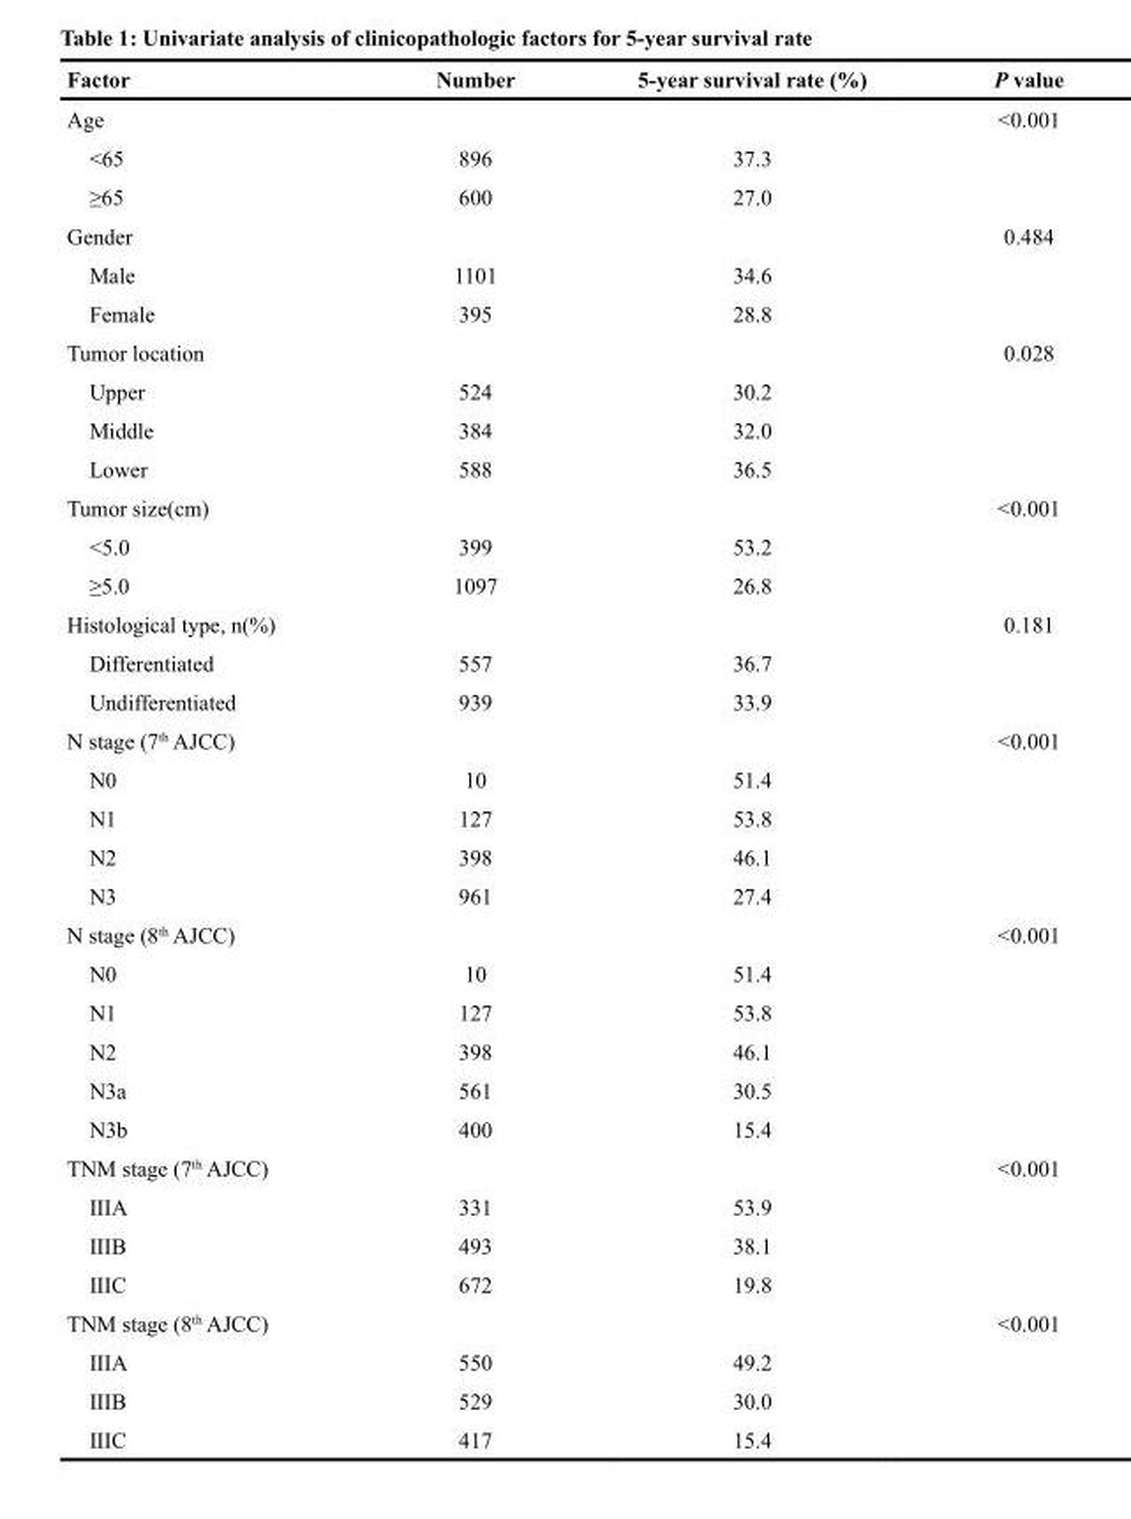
<table><thead><tr><td>Factor</td><td>Number</td><td>5-year survival rate (%)</td><td>P value</td></tr></thead><tbody><tr><td>Age</td><td></td><td></td><td>&lt;0.001</td></tr><tr><td>&lt;65</td><td>896</td><td>37.3</td><td></td></tr><tr><td>≥65</td><td>600</td><td>27.0</td><td></td></tr><tr><td>Gender</td><td></td><td></td><td>0.484</td></tr><tr><td>Male</td><td>1101</td><td>34.6</td><td></td></tr><tr><td>Female</td><td>395</td><td>28.8</td><td></td></tr><tr><td>Tumor location</td><td></td><td></td><td>0.028</td></tr><tr><td>Upper</td><td>524</td><td>30.2</td><td></td></tr><tr><td>Middle</td><td>384</td><td>32.0</td><td></td></tr><tr><td>Lower</td><td>588</td><td>36.5</td><td></td></tr><tr><td>Tumor size(cm)</td><td></td><td></td><td>&lt;0.001</td></tr><tr><td>&lt;5.0</td><td>399</td><td>53.2</td><td></td></tr><tr><td>≥5.0</td><td>1097</td><td>26.8</td><td></td></tr><tr><td>Histological type, n(%)</td><td></td><td></td><td>0.181</td></tr><tr><td>Differentiated</td><td>557</td><td>36.7</td><td></td></tr><tr><td>Undifferentiated</td><td>939</td><td>33.9</td><td></td></tr><tr><td>N stage (7<sup>th</sup> AJCC)</td><td></td><td></td><td>&lt;0.001</td></tr><tr><td>N0</td><td>10</td><td>51.4</td><td></td></tr><tr><td>N1</td><td>127</td><td>53.8</td><td></td></tr><tr><td>N2</td><td>398</td><td>46.1</td><td></td></tr><tr><td>N3</td><td>961</td><td>27.4</td><td></td></tr><tr><td>N stage (8<sup>th</sup> AJCC)</td><td></td><td></td><td>&lt;0.001</td></tr><tr><td>N0</td><td>10</td><td>51.4</td><td></td></tr><tr><td>N1</td><td>127</td><td>53.8</td><td></td></tr><tr><td>N2</td><td>398</td><td>46.1</td><td></td></tr><tr><td>N3a</td><td>561</td><td>30.5</td><td></td></tr><tr><td>N3b</td><td>400</td><td>15.4</td><td></td></tr><tr><td>TNM stage (7<sup>th</sup> AJCC)</td><td></td><td></td><td>&lt;0.001</td></tr><tr><td>IIIA</td><td>331</td><td>53.9</td><td></td></tr><tr><td>IIIB</td><td>493</td><td>38.1</td><td></td></tr><tr><td>IIIC</td><td>672</td><td>19.8</td><td></td></tr><tr><td>TNM stage (8<sup>th</sup> AJCC)</td><td></td><td></td><td>&lt;0.001</td></tr><tr><td>IIIA</td><td>550</td><td>49.2</td><td></td></tr><tr><td>IIIB</td><td>529</td><td>30.0</td><td></td></tr><tr><td>IIIC</td><td>417</td><td>15.4</td><td></td></tr></tbody></table>